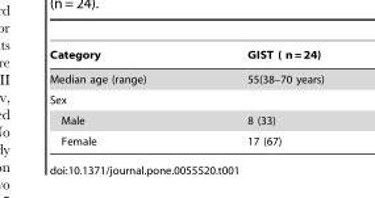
<table><thead><tr><td>Category</td><td>GIST ( n = 24)</td></tr></thead><tbody><tr><td>Median age (range)</td><td>55(38–70 years)</td></tr><tr><td colspan="2">Sex</td></tr><tr><td>Male</td><td>8 (33)</td></tr><tr><td>Female</td><td>17 (67)</td></tr></tbody></table>